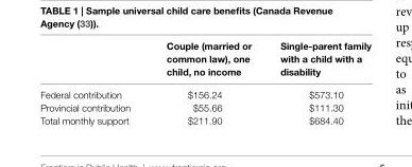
<table><thead><tr><td></td><td>couple (married or common law), one child, no income</td><td>single-parent family with a child with a disability</td></tr></thead><tbody><tr><td>Federal contribution</td><td>$156.24</td><td>$573.10</td></tr><tr><td>Provincial contribution</td><td>$55.66</td><td>$111.30</td></tr><tr><td>Total monthly support</td><td>$211.90</td><td>$684.40</td></tr></tbody></table>